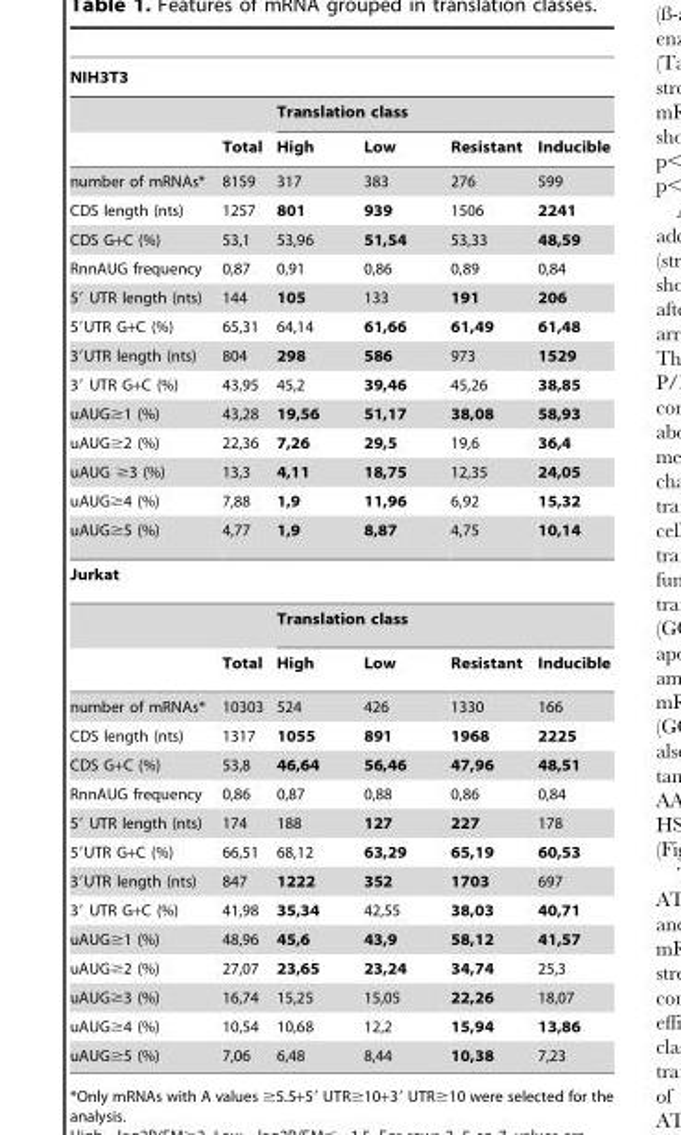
<table><thead><tr><td colspan="6">NIH3T3</td></tr><tr><td rowspan="2"></td><td rowspan="2">Total</td><td colspan="4">Translation class</td></tr><tr><td>High</td><td>Low</td><td>Resistant</td><td>Inducible</td></tr></thead><tbody><tr><td>number of mRNAs*</td><td>8159</td><td>317</td><td>383</td><td>276</td><td>599</td></tr><tr><td>CDS length (nts)</td><td>1257</td><td>801</td><td>939</td><td>1506</td><td>2241</td></tr><tr><td>CDS G+C (%)</td><td>53,1</td><td>53,96</td><td>51,54</td><td>53,33</td><td>48,59</td></tr><tr><td>RnnAUG frequency</td><td>0,87</td><td>0,91</td><td>0,86</td><td>0,89</td><td>0,84</td></tr><tr><td>5′ UTR length (nts)</td><td>144</td><td>105</td><td>133</td><td>191</td><td>206</td></tr><tr><td>5′UTR G+C (%)</td><td>65,31</td><td>64,14</td><td>61,66</td><td>61,49</td><td>61,48</td></tr><tr><td>3′UTR length (nts)</td><td>804</td><td>298</td><td>586</td><td>973</td><td>1529</td></tr><tr><td>3′ UTR G+C (%)</td><td>43,95</td><td>45,2</td><td>39,46</td><td>45,26</td><td>38,85</td></tr><tr><td>uAUG≥1 (%)</td><td>43,28</td><td>19,56</td><td>51,17</td><td>38,08</td><td>58,93</td></tr><tr><td>uAUG≥2 (%)</td><td>22,36</td><td>7,26</td><td>29,5</td><td>19,6</td><td>36,4</td></tr><tr><td>uAUG ≥3 (%)</td><td>13,3</td><td>4,11</td><td>18,75</td><td>12,35</td><td>24,05</td></tr><tr><td>uAUG≥4 (%)</td><td>7,88</td><td>1,9</td><td>11,96</td><td>6,92</td><td>15,32</td></tr><tr><td>uAUG≥5 (%)</td><td>4,77</td><td>1,9</td><td>8,87</td><td>4,75</td><td>10,14</td></tr><tr><td colspan="6">Jurkat</td></tr><tr><td colspan="2"></td><td colspan="4">Translation class</td></tr><tr><td></td><td>Total</td><td>High</td><td>Low</td><td>Resistant</td><td>Inducible</td></tr><tr><td>number of mRNAs*</td><td>10303</td><td>524</td><td>426</td><td>1330</td><td>166</td></tr><tr><td>CDS length (nts)</td><td>1317</td><td>1055</td><td>891</td><td>1968</td><td>2225</td></tr><tr><td>CDS G+C (%)</td><td>53,8</td><td>46,64</td><td>56,46</td><td>47,96</td><td>48,51</td></tr><tr><td>RnnAUG frequency</td><td>0,86</td><td>0,87</td><td>0,88</td><td>0,86</td><td>0,84</td></tr><tr><td>5′ UTR length (nts)</td><td>174</td><td>188</td><td>127</td><td>227</td><td>178</td></tr><tr><td>5′UTR G+C (%)</td><td>66,51</td><td>68,12</td><td>63,29</td><td>65,19</td><td>60,53</td></tr><tr><td>3′UTR length (nts)</td><td>847</td><td>1222</td><td>352</td><td>1703</td><td>697</td></tr><tr><td>3′ UTR G+C (%)</td><td>41,98</td><td>35,34</td><td>42,55</td><td>38,03</td><td>40,71</td></tr><tr><td>uAUG≥1 (%)</td><td>48,96</td><td>45,6</td><td>43,9</td><td>58,12</td><td>41,57</td></tr><tr><td>uAUG≥2 (%)</td><td>27,07</td><td>23,65</td><td>23,24</td><td>34,74</td><td>25,3</td></tr><tr><td>uAUG≥3 (%)</td><td>16,74</td><td>15,25</td><td>15,05</td><td>22,26</td><td>18,07</td></tr><tr><td>uAUG≥4 (%)</td><td>10,54</td><td>10,68</td><td>12,2</td><td>15,94</td><td>13,86</td></tr><tr><td>uAUG≥5 (%)</td><td>7,06</td><td>6,48</td><td>8,44</td><td>10,38</td><td>7,23</td></tr></tbody></table>